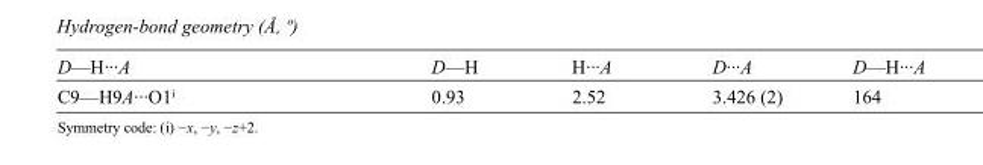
<table><tbody><tr><td>D—H···A</td><td>D—H</td><td>H···A</td><td>D···A</td><td>D—H···A</td></tr><tr><td>C9—H9A···O1<sup>i</sup></td><td>0.93</td><td>2.52</td><td>3.426 (2)</td><td>164</td></tr></tbody></table>